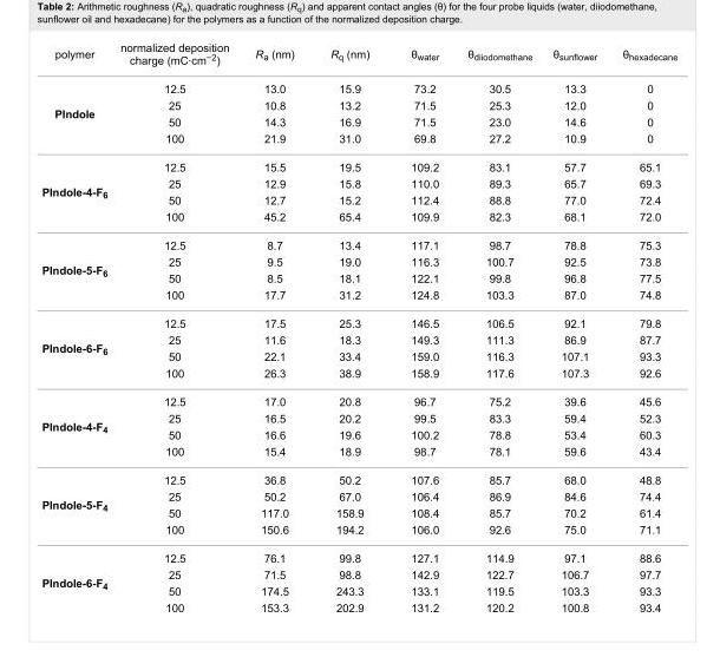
<table><tbody><tr><td>polymer</td><td>normalized deposition charge (mC·cm<sup>−2</sup>)</td><td>R<sub>a</sub> (nm)</td><td>R<sub>q</sub> (nm)</td><td>θ<sub>water</sub></td><td>θ<sub>diiodomethane</sub></td><td>θ<sub>sunflower</sub></td><td>θ<sub>hexadecane</sub></td></tr><tr><td rowspan="4">PIndole</td><td>12.5</td><td>13.0</td><td>15.9</td><td>73.2</td><td>30.5</td><td>13.3</td><td>0</td></tr><tr><td>25</td><td>10.8</td><td>13.2</td><td>71.5</td><td>25.3</td><td>12.0</td><td>0</td></tr><tr><td>50</td><td>14.3</td><td>16.9</td><td>71.5</td><td>23.0</td><td>14.6</td><td>0</td></tr><tr><td>100</td><td>21.9</td><td>31.0</td><td>69.8</td><td>27.2</td><td>10.9</td><td>0</td></tr><tr><td rowspan="4">PIndole-4-F<sub>6</sub></td><td>12.5</td><td>15.5</td><td>19.5</td><td>109.2</td><td>83.1</td><td>57.7</td><td>65.1</td></tr><tr><td>25</td><td>12.9</td><td>15.8</td><td>110.0</td><td>89.3</td><td>65.7</td><td>69.3</td></tr><tr><td>50</td><td>12.7</td><td>15.2</td><td>112.4</td><td>88.8</td><td>77.0</td><td>72.4</td></tr><tr><td>100</td><td>45.2</td><td>65.4</td><td>109.9</td><td>82.3</td><td>68.1</td><td>72.0</td></tr><tr><td rowspan="4">PIndole-5-F<sub>6</sub></td><td>12.5</td><td>8.7</td><td>13.4</td><td>117.1</td><td>98.7</td><td>78.8</td><td>75.3</td></tr><tr><td>25</td><td>9.5</td><td>19.0</td><td>116.3</td><td>100.7</td><td>92.5</td><td>73.8</td></tr><tr><td>50</td><td>8.5</td><td>18.1</td><td>122.1</td><td>99.8</td><td>96.8</td><td>77.5</td></tr><tr><td>100</td><td>17.7</td><td>31.2</td><td>124.8</td><td>103.3</td><td>87.0</td><td>74.8</td></tr><tr><td rowspan="4">PIndole-6-F<sub>6</sub></td><td>12.5</td><td>17.5</td><td>25.3</td><td>146.5</td><td>106.5</td><td>92.1</td><td>79.8</td></tr><tr><td>25</td><td>11.6</td><td>18.3</td><td>149.3</td><td>111.3</td><td>86.9</td><td>87.7</td></tr><tr><td>50</td><td>22.1</td><td>33.4</td><td>159.0</td><td>116.3</td><td>107.1</td><td>93.3</td></tr><tr><td>100</td><td>26.3</td><td>38.9</td><td>158.9</td><td>117.6</td><td>107.3</td><td>92.6</td></tr><tr><td rowspan="4">PIndole-4-F<sub>4</sub></td><td>12.5</td><td>17.0</td><td>20.8</td><td>96.7</td><td>75.2</td><td>39.6</td><td>45.6</td></tr><tr><td>25</td><td>16.5</td><td>20.2</td><td>99.5</td><td>83.3</td><td>59.4</td><td>52.3</td></tr><tr><td>50</td><td>16.6</td><td>19.6</td><td>100.2</td><td>78.8</td><td>53.4</td><td>60.3</td></tr><tr><td>100</td><td>15.4</td><td>18.9</td><td>98.7</td><td>78.1</td><td>59.6</td><td>43.4</td></tr><tr><td rowspan="4">PIndole-5-F<sub>4</sub></td><td>12.5</td><td>36.8</td><td>50.2</td><td>107.6</td><td>85.7</td><td>68.0</td><td>48.8</td></tr><tr><td>25</td><td>50.2</td><td>67.0</td><td>106.4</td><td>86.9</td><td>84.6</td><td>74.4</td></tr><tr><td>50</td><td>117.0</td><td>158.9</td><td>108.4</td><td>85.7</td><td>70.2</td><td>61.4</td></tr><tr><td>100</td><td>150.6</td><td>194.2</td><td>106.0</td><td>92.6</td><td>75.0</td><td>71.1</td></tr><tr><td rowspan="4">PIndole-6-F<sub>4</sub></td><td>12.5</td><td>76.1</td><td>99.8</td><td>127.1</td><td>114.9</td><td>97.1</td><td>88.6</td></tr><tr><td>25</td><td>71.5</td><td>98.8</td><td>142.9</td><td>122.7</td><td>106.7</td><td>97.7</td></tr><tr><td>50</td><td>174.5</td><td>243.3</td><td>133.1</td><td>119.5</td><td>103.3</td><td>93.3</td></tr><tr><td>100</td><td>153.3</td><td>202.9</td><td>131.2</td><td>120.2</td><td>100.8</td><td>93.4</td></tr></tbody></table>